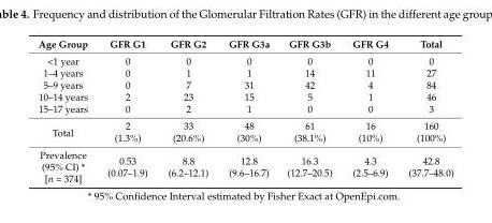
<table><thead><tr><td>Age Group</td><td>GFR G1</td><td>GFR G2</td><td>GFR G3a</td><td>GFR G3b</td><td>GFR G4</td><td>Total</td></tr></thead><tbody><tr><td>&lt;1 year</td><td>0</td><td>0</td><td>0</td><td>0</td><td>0</td><td>0</td></tr><tr><td>1–4 years</td><td>0</td><td>1</td><td>1</td><td>14</td><td>11</td><td>27</td></tr><tr><td>5–9 years</td><td>0</td><td>7</td><td>31</td><td>42</td><td>4</td><td>84</td></tr><tr><td>10–14 years</td><td>2</td><td>23</td><td>15</td><td>5</td><td>1</td><td>46</td></tr><tr><td>15–17 years</td><td>0</td><td>2</td><td>1</td><td>0</td><td>0</td><td>3</td></tr><tr><td rowspan="2">Total</td><td>2</td><td>33</td><td>48</td><td>61</td><td>16</td><td>160</td></tr><tr><td>(1.3%)</td><td>(20.6%)</td><td>(30%)</td><td>(38.1%)</td><td>(10%)</td><td>(100%)</td></tr><tr><td>Prevalence (95% CI) * [n = 374]</td><td>0.53 (0.07–1.9)</td><td>8.8 (6.2–12.1)</td><td>12.8 (9.6–16.7)</td><td>16.3 (12.7–20.5)</td><td>4.3 (2.5–6.9)</td><td>42.8 (37.7–48.0)</td></tr></tbody></table>